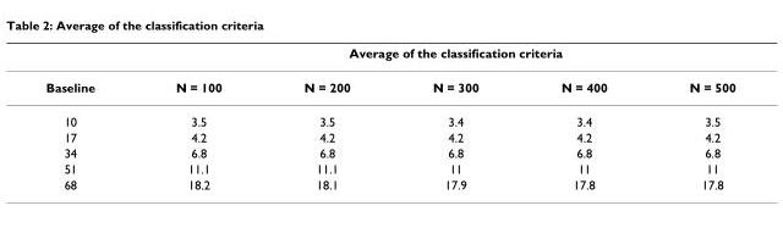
<table><thead><tr><td rowspan="2">Baseline</td><td colspan="5">Average of the classification criteria</td></tr><tr><td>N = 100</td><td>N = 200</td><td>N = 300</td><td>N = 400</td><td>N = 500</td></tr></thead><tbody><tr><td>10</td><td>3.5</td><td>3.5</td><td>3.4</td><td>3.4</td><td>3.5</td></tr><tr><td>17</td><td>4.2</td><td>4.2</td><td>4.2</td><td>4.2</td><td>4.2</td></tr><tr><td>34</td><td>6.8</td><td>6.8</td><td>6.8</td><td>6.8</td><td>6.8</td></tr><tr><td>51</td><td>11.1</td><td>11.1</td><td>11</td><td>11</td><td>11</td></tr><tr><td>68</td><td>18.2</td><td>18.1</td><td>17.9</td><td>17.8</td><td>17.8</td></tr></tbody></table>